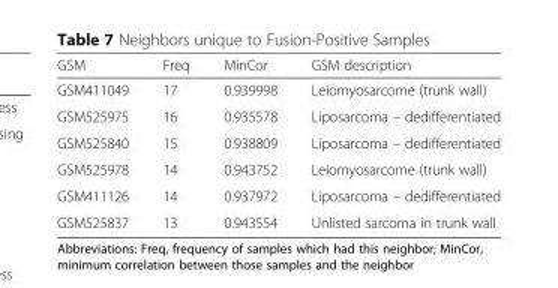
<table><thead><tr><td>GSM</td><td>Freq</td><td>MinCor</td><td>GSM description</td></tr></thead><tbody><tr><td>GSM411049</td><td>17</td><td>0.939998</td><td>Leiomyosarcome (trunk wall)</td></tr><tr><td>GSM525975</td><td>16</td><td>0.935578</td><td>Liposarcoma – dedifferentiated</td></tr><tr><td>GSM525840</td><td>15</td><td>0.938809</td><td>Liposarcoma – dedifferentiated</td></tr><tr><td>GSM525978</td><td>14</td><td>0.943752</td><td>Leiomyosarcome (trunk wall)</td></tr><tr><td>GSM411126</td><td>14</td><td>0.937972</td><td>Liposarcoma – dedifferentiated</td></tr><tr><td>GSM525837</td><td>13</td><td>0.943554</td><td>Unlisted sarcoma in trunk wall</td></tr></tbody></table>